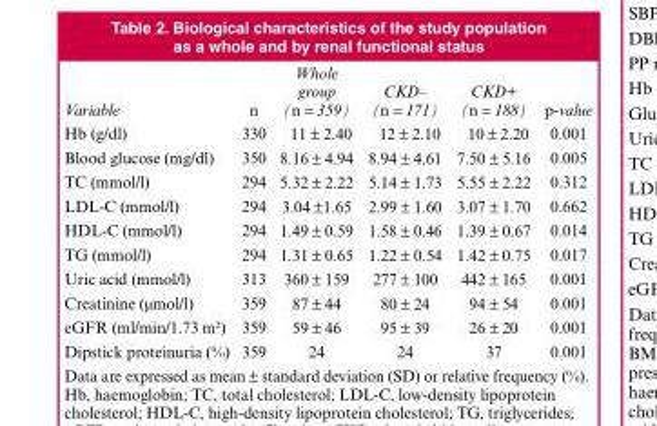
<table><thead><tr><td>Variable</td><td>n</td><td>Whole group (n = 359)</td><td>CKD– (n = 171)</td><td>CKD+ (n = 188)</td><td>p-value</td></tr></thead><tbody><tr><td>Hb (g/dl)</td><td>330</td><td>11 ± 2.40</td><td>12 ± 2.10</td><td>10 ± 2.20</td><td>0.001</td></tr><tr><td>Blood glucose (mg/dl)</td><td>350</td><td>8.16 ± 4.94</td><td>8.94 ± 4.61</td><td>7.50 ± 5.16</td><td>0.005</td></tr><tr><td>TC (mmol/l)</td><td>294</td><td>5.32 ± 2.22</td><td>5.14 ± 1.73</td><td>5.55 ± 2.22</td><td>0.312</td></tr><tr><td>LDL-C (mmol/l)</td><td>294</td><td>3.04 ±1.65</td><td>2.99 ± 1.60</td><td>3.07 ± 1.70</td><td>0.662</td></tr><tr><td>HDL-C (mmol/l)</td><td>294</td><td>1.49 ± 0.59</td><td>1.58 ± 0.46</td><td>1.39 ± 0.67</td><td>0.014</td></tr><tr><td>TG (mmol/l)</td><td>294</td><td>1.31 ± 0.65</td><td>1.22 ± 0.54</td><td>1.42 ± 0.75</td><td>0.017</td></tr><tr><td>Uric acid (mmol/l)</td><td>313</td><td>360 ± 159</td><td>277 ± 100</td><td>442 ± 165</td><td>0.001</td></tr><tr><td>Creatinine (µmol/l)</td><td>359</td><td>87 ± 44</td><td>80 ± 24</td><td>94 ± 54</td><td>0.001</td></tr><tr><td>eGFR (ml/min/1.73 m²)</td><td>359</td><td>59 ± 46</td><td>95 ± 39</td><td>26 ± 20</td><td>0.001</td></tr><tr><td>Dipstick proteinuria (%)</td><td>359</td><td>24</td><td>24</td><td>37</td><td>0.001</td></tr></tbody></table>